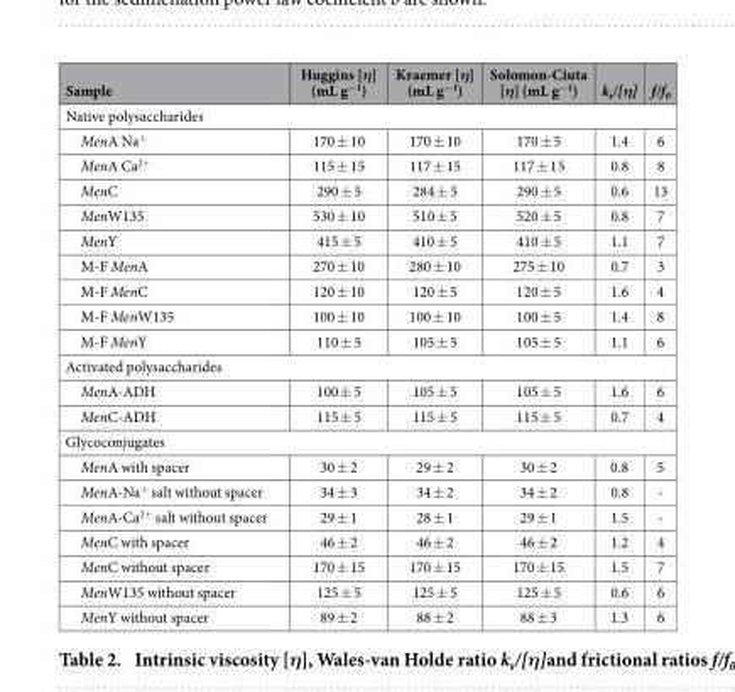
<table><thead><tr><td>Sample</td><td>Huggins [η] (mL g<sup>−1</sup>)</td><td>Kraemer [η] (mL g<sup>−1</sup>)</td><td>Solomon-Ciuta [η] (mL g<sup>−1</sup>)</td><td>k<sub>s</sub>/[η]</td><td>f/f<sub>0</sub></td></tr></thead><tbody><tr><td colspan="6">Native polysaccharides</td></tr><tr><td>MenA Na<sup>+</sup></td><td>170 ± 10</td><td>170 ± 10</td><td>170 ± 5</td><td>1.4</td><td>6</td></tr><tr><td>MenA Ca<sup>2+</sup></td><td>115 ± 15</td><td>117 ± 15</td><td>117 ± 15</td><td>0.8</td><td>8</td></tr><tr><td>MenC</td><td>290 ± 5</td><td>284 ± 5</td><td>290 ± 5</td><td>0.6</td><td>13</td></tr><tr><td>MenW135</td><td>530 ± 10</td><td>510 ± 5</td><td>520 ± 5</td><td>0.8</td><td>7</td></tr><tr><td>MenY</td><td>415 ± 5</td><td>410 ± 5</td><td>410 ± 5</td><td>1.1</td><td>7</td></tr><tr><td>M-F MenA</td><td>270 ± 10</td><td>280 ± 10</td><td>275 ± 10</td><td>0.7</td><td>3</td></tr><tr><td>M-F MenC</td><td>120 ± 10</td><td>120 ± 5</td><td>120 ± 5</td><td>1.6</td><td>4</td></tr><tr><td>M-F MenW135</td><td>100 ± 10</td><td>100 ± 10</td><td>100 ± 5</td><td>1.4</td><td>8</td></tr><tr><td>M-F MenY</td><td>110 ± 5</td><td>105 ± 5</td><td>105 ± 5</td><td>1.1</td><td>6</td></tr><tr><td colspan="6">Activated polysaccharides</td></tr><tr><td>MenA-ADH</td><td>100 ± 5</td><td>105 ± 5</td><td>105 ± 5</td><td>1.6</td><td>6</td></tr><tr><td>MenC-ADH</td><td>115 ± 5</td><td>115 ± 5</td><td>115 ± 5</td><td>0.7</td><td>4</td></tr><tr><td colspan="6">Glycoconjugates</td></tr><tr><td>MenA with spacer</td><td>30 ± 2</td><td>29 ± 2</td><td>30 ± 2</td><td>0.8</td><td>5</td></tr><tr><td>MenA-Na<sup>+</sup> salt without spacer</td><td>34 ± 3</td><td>34 ± 2</td><td>34 ± 2</td><td>0.8</td><td>-</td></tr><tr><td>MenA-Ca<sup>2+</sup> salt without spacer</td><td>29 ± 1</td><td>28 ± 1</td><td>29 ± 1</td><td>1.5</td><td>-</td></tr><tr><td>MenC with spacer</td><td>46 ± 2</td><td>46 ± 2</td><td>46 ± 2</td><td>1.2</td><td>4</td></tr><tr><td>MenC without spacer</td><td>170 ± 15</td><td>170 ± 15</td><td>170 ± 15</td><td>1.5</td><td>7</td></tr><tr><td>MenW135 without spacer</td><td>125 ± 5</td><td>125 ± 5</td><td>125 ± 5</td><td>0.6</td><td>6</td></tr><tr><td>MenY without spacer</td><td>89 ± 2</td><td>88 ± 2</td><td>88 ± 3</td><td>1.3</td><td>6</td></tr></tbody></table>